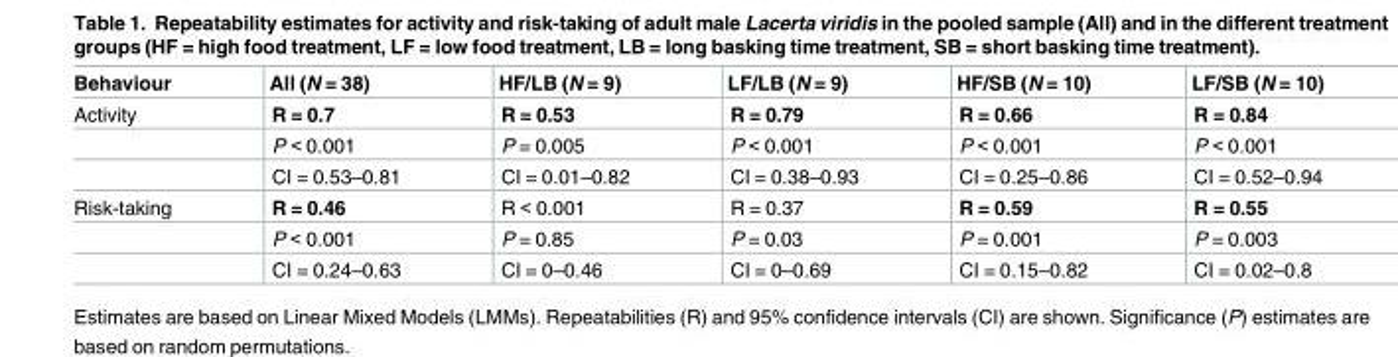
<table><thead><tr><td>Behaviour</td><td>All (N = 38)</td><td>HF/LB (N = 9)</td><td>LF/LB (N = 9)</td><td>HF/SB (N = 10)</td><td>LF/SB (N = 10)</td></tr></thead><tbody><tr><td rowspan="3">Activity</td><td>R = 0.7</td><td>R = 0.53</td><td>R = 0.79</td><td>R = 0.66</td><td>R = 0.84</td></tr><tr><td>P &lt; 0.001</td><td>P = 0.005</td><td>P &lt; 0.001</td><td>P &lt; 0.001</td><td>P &lt; 0.001</td></tr><tr><td>CI = 0.53–0.81</td><td>CI = 0.01–0.82</td><td>CI = 0.38–0.93</td><td>CI = 0.25–0.86</td><td>CI = 0.52–0.94</td></tr><tr><td rowspan="3">Risk-taking</td><td>R = 0.46</td><td>R &lt; 0.001</td><td>R = 0.37</td><td>R = 0.59</td><td>R = 0.55</td></tr><tr><td>P &lt; 0.001</td><td>P = 0.85</td><td>P = 0.03</td><td>P = 0.001</td><td>P = 0.003</td></tr><tr><td>CI = 0.24–0.63</td><td>CI = 0–0.46</td><td>CI = 0–0.69</td><td>CI = 0.15–0.82</td><td>CI = 0.02–0.8</td></tr></tbody></table>